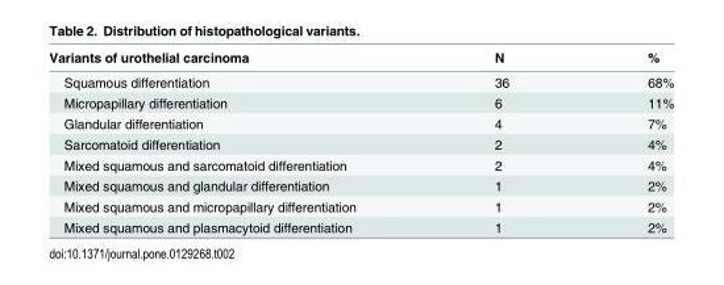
<table><thead><tr><td>Variants of urothelial carcinoma</td><td>N</td><td>%</td></tr></thead><tbody><tr><td>Squamous differentiation</td><td>36</td><td>68%</td></tr><tr><td>Micropapillary differentiation</td><td>6</td><td>11%</td></tr><tr><td>Glandular differentiation</td><td>4</td><td>7%</td></tr><tr><td>Sarcomatoid differentiation</td><td>2</td><td>4%</td></tr><tr><td>Mixed squamous and sarcomatoid differentiation</td><td>2</td><td>4%</td></tr><tr><td>Mixed squamous and glandular differentiation</td><td>1</td><td>2%</td></tr><tr><td>Mixed squamous and micropapillary differentiation</td><td>1</td><td>2%</td></tr><tr><td>Mixed squamous and plasmacytoid differentiation</td><td>1</td><td>2%</td></tr></tbody></table>